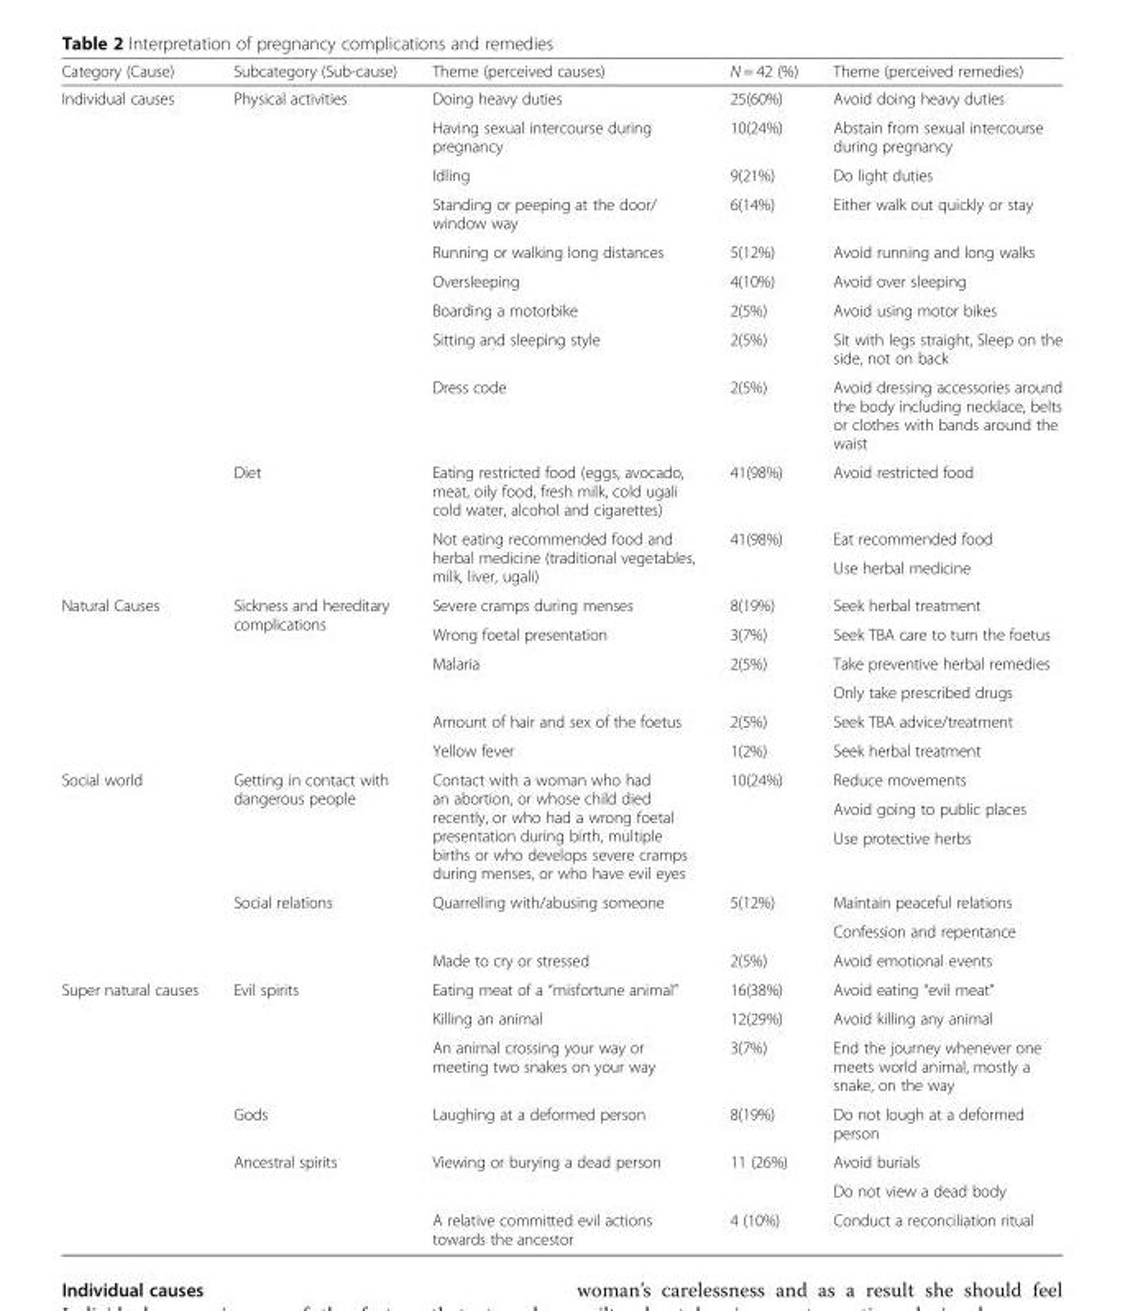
<table><thead><tr><td>Category (Cause)</td><td>Subcategory (Sub-cause)</td><td>Theme (perceived causes)</td><td>N = 42 (%)</td><td>Theme (perceived remedies)</td></tr></thead><tbody><tr><td rowspan="12">Individual causes</td><td rowspan="9">Physical activities</td><td>Doing heavy duties</td><td>25(60%)</td><td>Avoid doing heavy duties</td></tr><tr><td>Having sexual intercourse during pregnancy</td><td>10(24%)</td><td>Abstain from sexual intercourse during pregnancy</td></tr><tr><td>Idling</td><td>9(21%)</td><td>Do light duties</td></tr><tr><td>Standing or peeping at the door/ window way</td><td>6(14%)</td><td>Either walk out quickly or stay</td></tr><tr><td>Running or walking long distances</td><td>5(12%)</td><td>Avoid running and long walks</td></tr><tr><td>Oversleeping</td><td>4(10%)</td><td>Avoid over sleeping</td></tr><tr><td>Boarding a motorbike</td><td>2(5%)</td><td>Avoid using motor bikes</td></tr><tr><td>Sitting and sleeping style</td><td>2(5%)</td><td>Sit with legs straight, Sleep on the side, not on back</td></tr><tr><td>Dress code</td><td>2(5%)</td><td>Avoid dressing accessories around the body including necklace, belts or clothes with bands around the waist</td></tr><tr><td rowspan="3">Diet</td><td>Eating restricted food (eggs, avocado, meat, oily food, fresh milk, cold ugali cold water, alcohol and cigarettes)</td><td>41(98%)</td><td>Avoid restricted food</td></tr><tr><td rowspan="2">Not eating recommended food and herbal medicine (traditional vegetables, milk, liver, ugali)</td><td rowspan="2">41(98%)</td><td>Eat recommended food</td></tr><tr><td>Use herbal medicine</td></tr><tr><td rowspan="6">Natural Causes</td><td rowspan="6">Sickness and hereditary complications</td><td>Severe cramps during menses</td><td>8(19%)</td><td>Seek herbal treatment</td></tr><tr><td>Wrong foetal presentation</td><td>3(7%)</td><td>Seek TBA care to turn the foetus</td></tr><tr><td rowspan="2">Malaria</td><td rowspan="2">2(5%)</td><td>Take preventive herbal remedies</td></tr><tr><td>Only take prescribed drugs</td></tr><tr><td>Amount of hair and sex of the foetus</td><td>2(5%)</td><td>Seek TBA advice/treatment</td></tr><tr><td>Yellow fever</td><td>1(2%)</td><td>Seek herbal treatment</td></tr><tr><td rowspan="6">Social world</td><td rowspan="3">Getting in contact with dangerous people</td><td rowspan="3">Contact with a woman who had an abortion, or whose child died recently, or who had a wrong foetal presentation during birth, multiple births or who develops severe cramps during menses, or who have evil eyes</td><td rowspan="3">10(24%)</td><td>Reduce movements</td></tr><tr><td>Avoid going to public places</td></tr><tr><td>Use protective herbs</td></tr><tr><td rowspan="3">Social relations</td><td rowspan="2">Quarrelling with/abusing someone</td><td rowspan="2">5(12%)</td><td>Maintain peaceful relations</td></tr><tr><td>Confession and repentance</td></tr><tr><td>Made to cry or stressed</td><td>2(5%)</td><td>Avoid emotional events</td></tr><tr><td rowspan="7">Super natural causes</td><td rowspan="3">Evil spirits</td><td>Eating meat of a “misfortune animal”</td><td>16(38%)</td><td>Avoid eating “evil meat”</td></tr><tr><td>Killing an animal</td><td>12(29%)</td><td>Avoid killing any animal</td></tr><tr><td>An animal crossing your way or meeting two snakes on your way</td><td>3(7%)</td><td>End the journey whenever one meets world animal, mostly a snake, on the way</td></tr><tr><td>Gods</td><td>Laughing at a deformed person</td><td>8(19%)</td><td>Do not lough at a deformed person</td></tr><tr><td rowspan="3">Ancestral spirits</td><td rowspan="2">Viewing or burying a dead person</td><td rowspan="2">11 (26%)</td><td>Avoid burials</td></tr><tr><td>Do not view a dead body</td></tr><tr><td>A relative committed evil actions towards the ancestor</td><td>4 (10%)</td><td>Conduct a reconciliation ritual</td></tr></tbody></table>